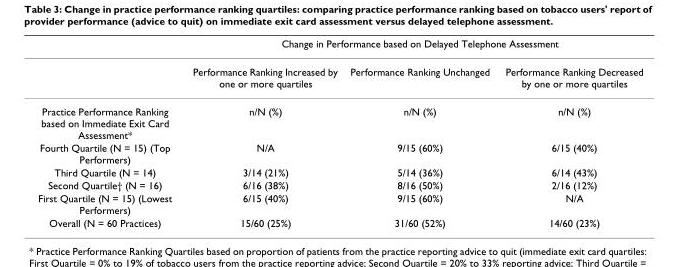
<table><thead><tr><td rowspan="2"></td><td colspan="3">Change in Performance based on Delayed Telephone Assessment</td></tr><tr><td>Performance Ranking Increased by one or more quartiles</td><td>Performance Ranking Unchanged</td><td>Performance Ranking Decreased by one or more quartiles</td></tr></thead><tbody><tr><td>Practice Performance Ranking based on Immediate Exit Card Assessment*</td><td>n/N (%)</td><td>n/N (%)</td><td>n/N (%)</td></tr><tr><td>Fourth Quartile (N = 15) (Top Performers)</td><td>N/A</td><td>9/15 (60%)</td><td>6/15 (40%)</td></tr><tr><td>Third Quartile (N = 14)</td><td>3/14 (21%)</td><td>5/14 (36%)</td><td>6/14 (43%)</td></tr><tr><td>Second Quartile† (N = 16)</td><td>6/16 (38%)</td><td>8/16 (50%)</td><td>2/16 (12%)</td></tr><tr><td>First Quartile (N = 15) (Lowest Performers)</td><td>6/15 (40%)</td><td>9/15 (60%)</td><td>N/A</td></tr><tr><td>Overall (N = 60 Practices)</td><td>15/60 (25%)</td><td>31/60 (52%)</td><td>14/60 (23%)</td></tr></tbody></table>